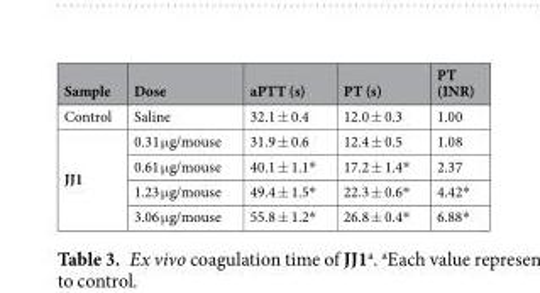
<table><thead><tr><td>Sample</td><td>Dose</td><td>aPTT (s)</td><td>PT (s)</td><td>PT (INR)</td></tr></thead><tbody><tr><td>Control</td><td>Saline</td><td>32.1 ± 0.4</td><td>12.0 ± 0.3</td><td>1.00</td></tr><tr><td rowspan="4">JJ1</td><td>0.31 μg/mouse</td><td>31.9 ± 0.6</td><td>12.4 ± 0.5</td><td>1.08</td></tr><tr><td>0.61 μg/mouse</td><td>40.1 ± 1.1*</td><td>17.2 ± 1.4*</td><td>2.37</td></tr><tr><td>1.23 μg/mouse</td><td>49.4 ± 1.5*</td><td>22.3 ± 0.6*</td><td>4.42*</td></tr><tr><td>3.06 μg/mouse</td><td>55.8 ± 1.2*</td><td>26.8 ± 0.4*</td><td>6.88*</td></tr></tbody></table>